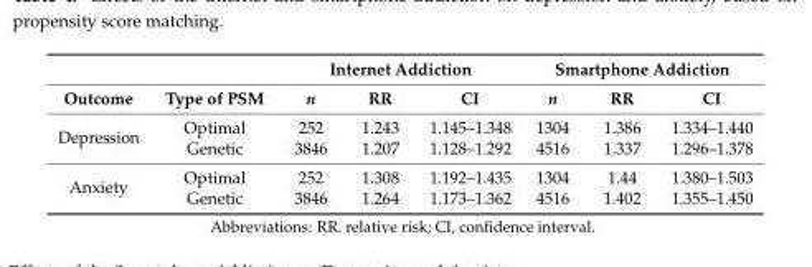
<table><thead><tr><td rowspan="2">Outcome</td><td rowspan="2">Type of PSM</td><td colspan="3">Internet Addiction</td><td colspan="3">Smartphone Addiction</td></tr><tr><td>n</td><td>RR</td><td>CI</td><td>n</td><td>RR</td><td>CI</td></tr></thead><tbody><tr><td rowspan="2">Depression</td><td>Optimal</td><td>252</td><td>1.243</td><td>1.145–1.348</td><td>1304</td><td>1.386</td><td>1.334–1.440</td></tr><tr><td>Genetic</td><td>3846</td><td>1.207</td><td>1.128–1.292</td><td>4516</td><td>1.337</td><td>1.296–1.378</td></tr><tr><td rowspan="2">Anxiety</td><td>Optimal</td><td>252</td><td>1.308</td><td>1.192–1.435</td><td>1304</td><td>1.44</td><td>1.380–1.503</td></tr><tr><td>Genetic</td><td>3846</td><td>1.264</td><td>1.173–1.362</td><td>4516</td><td>1.402</td><td>1.355–1.450</td></tr></tbody></table>